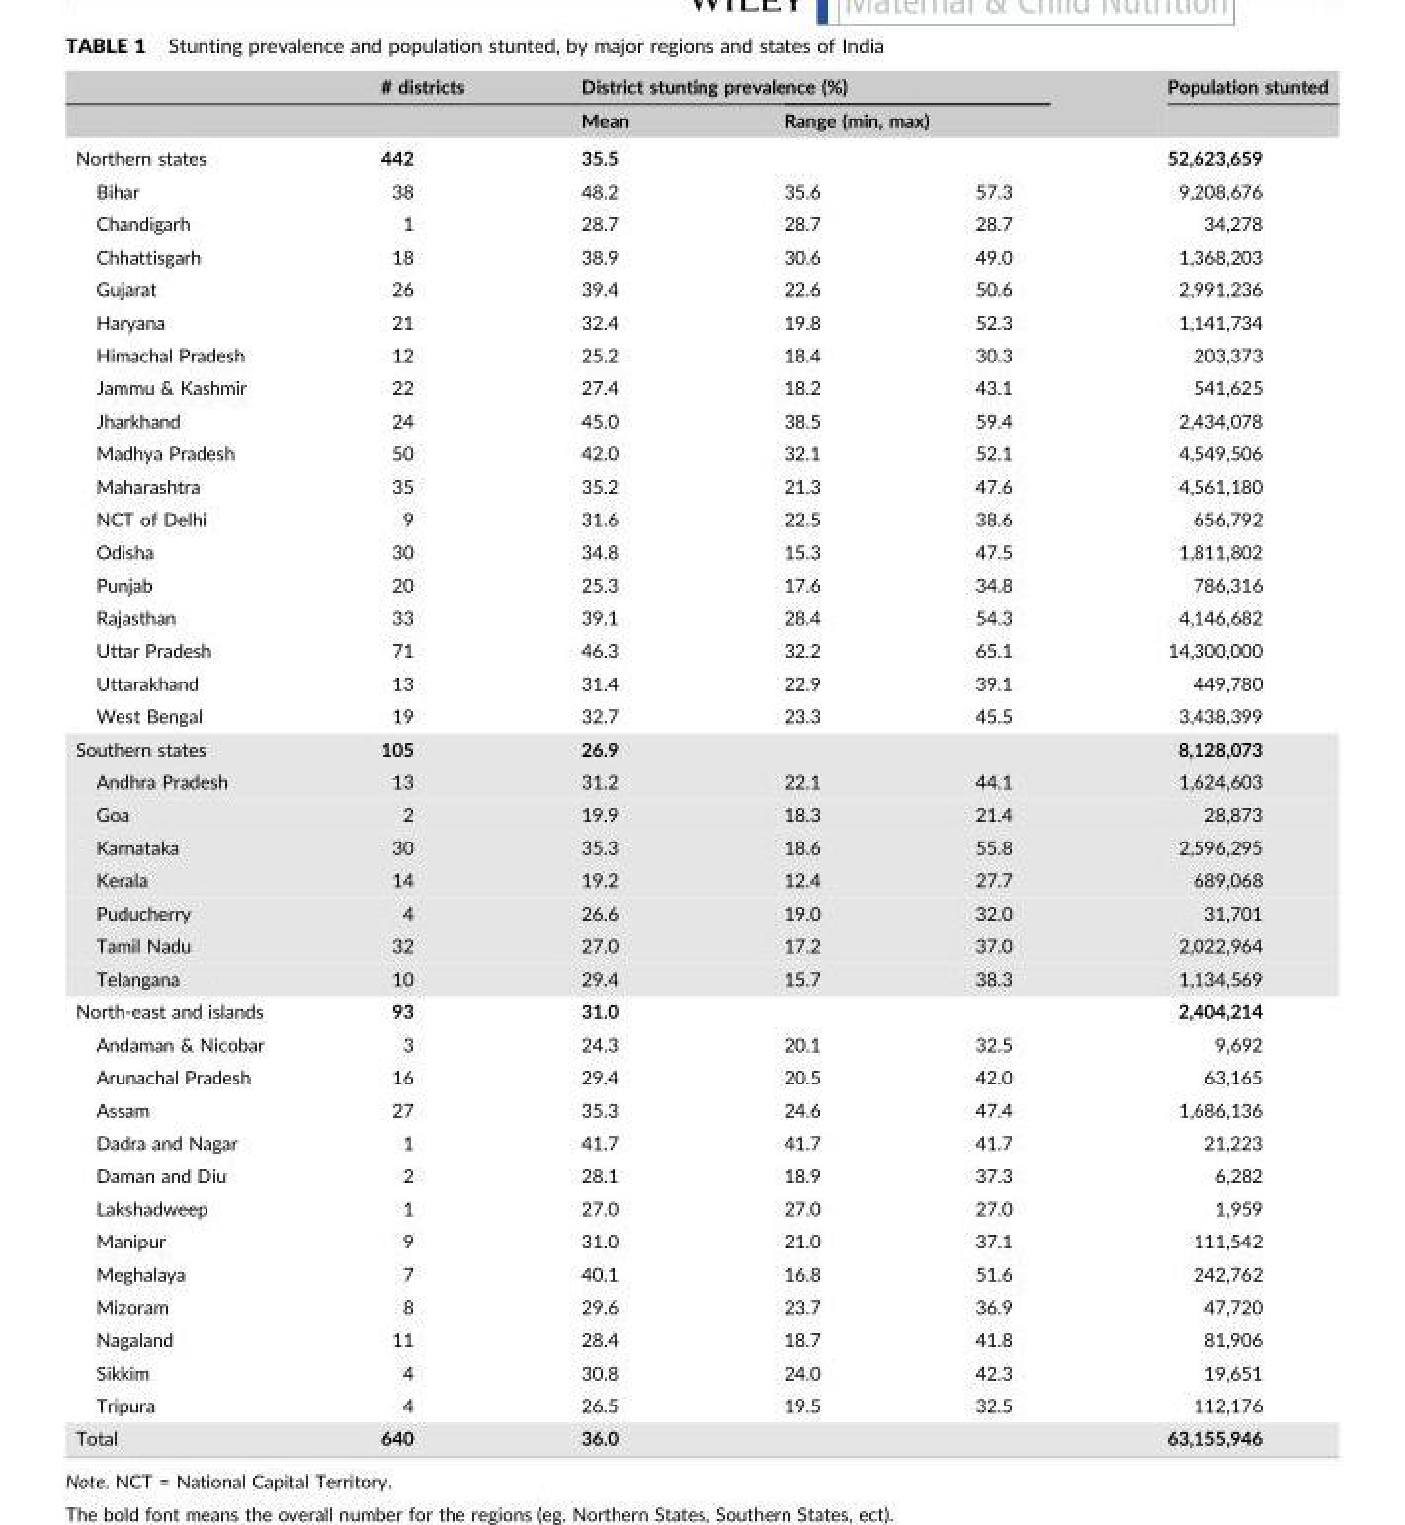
<table><thead><tr><td rowspan="3">Northern states</td><td rowspan="3"># districts 442</td><td colspan="3">District stunting prevalence (%)</td><td rowspan="3">Population stunted 52,623,659</td></tr><tr><td rowspan="2">Mean 35.5</td><td colspan="2">Range (min, max)</td></tr><tr><td></td><td></td></tr></thead><tbody><tr><td>Bihar</td><td>38</td><td>48.2</td><td>35.6</td><td>57.3</td><td>9,208,676</td></tr><tr><td>Chandigarh</td><td>1</td><td>28.7</td><td>28.7</td><td>28.7</td><td>34,278</td></tr><tr><td>Chhattisgarh</td><td>18</td><td>38.9</td><td>30.6</td><td>49.0</td><td>1,368,203</td></tr><tr><td>Gujarat</td><td>26</td><td>39.4</td><td>22.6</td><td>50.6</td><td>2,991,236</td></tr><tr><td>Haryana</td><td>21</td><td>32.4</td><td>19.8</td><td>52.3</td><td>1,141,734</td></tr><tr><td>Himachal Pradesh</td><td>12</td><td>25.2</td><td>18.4</td><td>30.3</td><td>203,373</td></tr><tr><td>Jammu &amp; Kashmir</td><td>22</td><td>27.4</td><td>18.2</td><td>43.1</td><td>541,625</td></tr><tr><td>Jharkhand</td><td>24</td><td>45.0</td><td>38.5</td><td>59.4</td><td>2,434,078</td></tr><tr><td>Madhya Pradesh</td><td>50</td><td>42.0</td><td>32.1</td><td>52.1</td><td>4,549,506</td></tr><tr><td>Maharashtra</td><td>35</td><td>35.2</td><td>21.3</td><td>47.6</td><td>4,561,180</td></tr><tr><td>NCT of Delhi</td><td>9</td><td>31.6</td><td>22.5</td><td>38.6</td><td>656,792</td></tr><tr><td>Odisha</td><td>30</td><td>34.8</td><td>15.3</td><td>47.5</td><td>1,811,802</td></tr><tr><td>Punjab</td><td>20</td><td>25.3</td><td>17.6</td><td>34.8</td><td>786,316</td></tr><tr><td>Rajasthan</td><td>33</td><td>39.1</td><td>28.4</td><td>54.3</td><td>4,146,682</td></tr><tr><td>Uttar Pradesh</td><td>71</td><td>46.3</td><td>32.2</td><td>65.1</td><td>14,300,000</td></tr><tr><td>Uttarakhand</td><td>13</td><td>31.4</td><td>22.9</td><td>39.1</td><td>449,780</td></tr><tr><td>West Bengal</td><td>19</td><td>32.7</td><td>23.3</td><td>45.5</td><td>3,438,399</td></tr><tr><td>Southern states</td><td>105</td><td>26.9</td><td></td><td></td><td>8,128,073</td></tr><tr><td>Andhra Pradesh</td><td>13</td><td>31.2</td><td>22.1</td><td>44.1</td><td>1,624,603</td></tr><tr><td>Goa</td><td>2</td><td>19.9</td><td>18.3</td><td>21.4</td><td>28,873</td></tr><tr><td>Karnataka</td><td>30</td><td>35.3</td><td>18.6</td><td>55.8</td><td>2,596,295</td></tr><tr><td>Kerala</td><td>14</td><td>19.2</td><td>12.4</td><td>27.7</td><td>689,068</td></tr><tr><td>Puducherry</td><td>4</td><td>26.6</td><td>19.0</td><td>32.0</td><td>31,701</td></tr><tr><td>Tamil Nadu</td><td>32</td><td>27.0</td><td>17.2</td><td>37.0</td><td>2,022,964</td></tr><tr><td>Telangana</td><td>10</td><td>29.4</td><td>15.7</td><td>38.3</td><td>1,134,569</td></tr><tr><td>North‐east and islands</td><td>93</td><td>31.0</td><td></td><td></td><td>2,404,214</td></tr><tr><td>Andaman &amp; Nicobar</td><td>3</td><td>24.3</td><td>20.1</td><td>32.5</td><td>9,692</td></tr><tr><td>Arunachal Pradesh</td><td>16</td><td>29.4</td><td>20.5</td><td>42.0</td><td>63,165</td></tr><tr><td>Assam</td><td>27</td><td>35.3</td><td>24.6</td><td>47.4</td><td>1,686,136</td></tr><tr><td>Dadra and Nagar</td><td>1</td><td>41.7</td><td>41.7</td><td>41.7</td><td>21,223</td></tr><tr><td>Daman and Diu</td><td>2</td><td>28.1</td><td>18.9</td><td>37.3</td><td>6,282</td></tr><tr><td>Lakshadweep</td><td>1</td><td>27.0</td><td>27.0</td><td>27.0</td><td>1,959</td></tr><tr><td>Manipur</td><td>9</td><td>31.0</td><td>21.0</td><td>37.1</td><td>111,542</td></tr><tr><td>Meghalaya</td><td>7</td><td>40.1</td><td>16.8</td><td>51.6</td><td>242,762</td></tr><tr><td>Mizoram</td><td>8</td><td>29.6</td><td>23.7</td><td>36.9</td><td>47,720</td></tr><tr><td>Nagaland</td><td>11</td><td>28.4</td><td>18.7</td><td>41.8</td><td>81,906</td></tr><tr><td>Sikkim</td><td>4</td><td>30.8</td><td>24.0</td><td>42.3</td><td>19,651</td></tr><tr><td>Tripura</td><td>4</td><td>26.5</td><td>19.5</td><td>32.5</td><td>112,176</td></tr><tr><td>Total</td><td>640</td><td>36.0</td><td></td><td></td><td>63,155,946</td></tr></tbody></table>